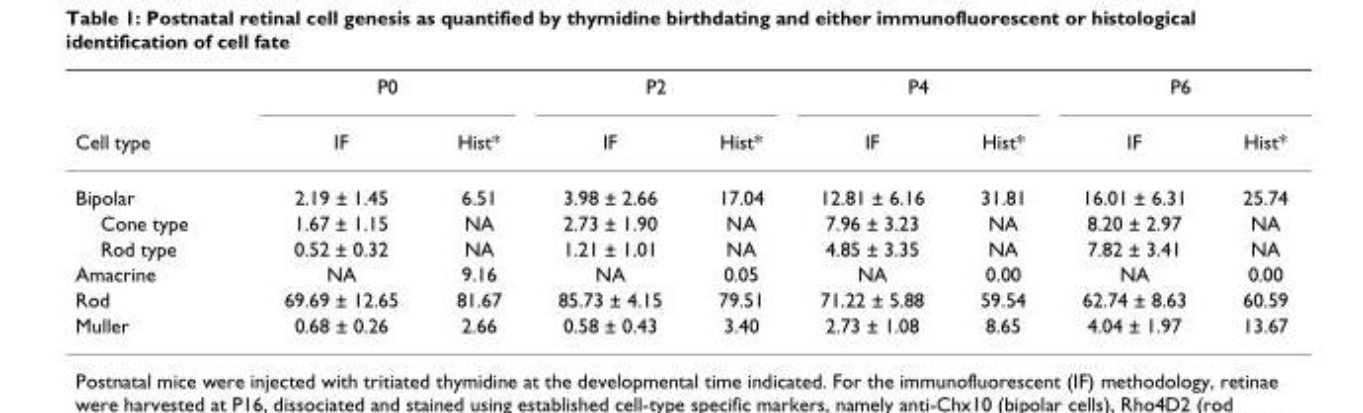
<table><thead><tr><td rowspan="2">Cell type</td><td colspan="2">P0</td><td colspan="2">P2</td><td colspan="2">P4</td><td colspan="2">P6</td></tr><tr><td>IF</td><td>Hist*</td><td>IF</td><td>Hist*</td><td>IF</td><td>Hist*</td><td>IF</td><td>Hist*</td></tr></thead><tbody><tr><td>Bipolar</td><td>2.19 ± 1.45</td><td>6.51</td><td>3.98 ± 2.66</td><td>17.04</td><td>12.81 ± 6.16</td><td>31.81</td><td>16.01 ± 6.31</td><td>25.74</td></tr><tr><td>Cone type</td><td>1.67 ± 1.15</td><td>NA</td><td>2.73 ± 1.90</td><td>NA</td><td>7.96 ± 3.23</td><td>NA</td><td>8.20 ± 2.97</td><td>NA</td></tr><tr><td>Rod type</td><td>0.52 ± 0.32</td><td>NA</td><td>1.21 ± 1.01</td><td>NA</td><td>4.85 ± 3.35</td><td>NA</td><td>7.82 ± 3.41</td><td>NA</td></tr><tr><td>Amacrine</td><td>NA</td><td>9.16</td><td>NA</td><td>0.05</td><td>NA</td><td>0.00</td><td>NA</td><td>0.00</td></tr><tr><td>Rod</td><td>69.69 ± 12.65</td><td>81.67</td><td>85.73 ± 4.15</td><td>79.51</td><td>71.22 ± 5.88</td><td>59.54</td><td>62.74 ± 8.63</td><td>60.59</td></tr><tr><td>Muller</td><td>0.68 ± 0.26</td><td>2.66</td><td>0.58 ± 0.43</td><td>3.40</td><td>2.73 ± 1.08</td><td>8.65</td><td>4.04 ± 1.97</td><td>13.67</td></tr></tbody></table>